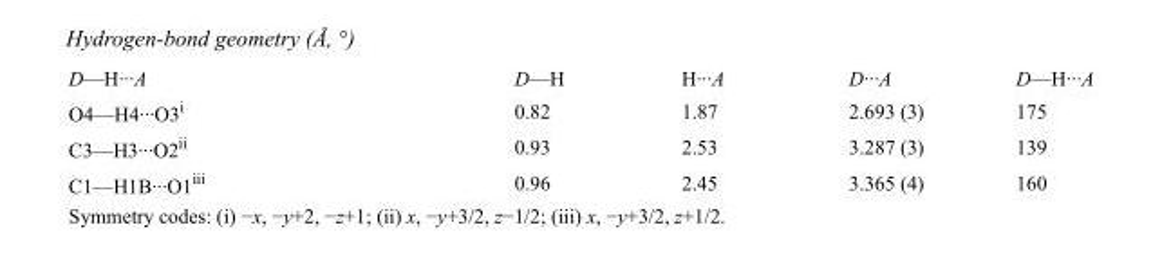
<table><tbody><tr><td>D—H···A</td><td>D—H</td><td>H···A</td><td>D···A</td><td>D—H···A</td></tr><tr><td>O4—H4···O3<sup>i</sup></td><td>0.82</td><td>1.87</td><td>2.693 (3)</td><td>175</td></tr><tr><td>C3—H3···O2<sup>ii</sup></td><td>0.93</td><td>2.53</td><td>3.287 (3)</td><td>139</td></tr><tr><td>C1—H1B···O1<sup>iii</sup></td><td>0.96</td><td>2.45</td><td>3.365 (4)</td><td>160</td></tr></tbody></table>